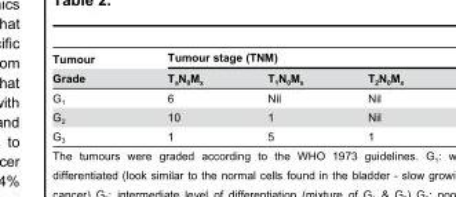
<table><thead><tr><td rowspan="2">Tumour Grade</td><td colspan="3">Tumour stage (TNM)</td></tr><tr><td>T<sub>a</sub>N<sub>0</sub>M<sub>x</sub></td><td>T<sub>1</sub>N<sub>0</sub>M<sub>x</sub></td><td>T<sub>2</sub>N<sub>0</sub>M<sub>x</sub></td></tr></thead><tbody><tr><td>G<sub>1</sub></td><td>6</td><td>Nil</td><td>Nil</td></tr><tr><td>G<sub>2</sub></td><td>10</td><td>1</td><td>Nil</td></tr><tr><td>G<sub>3</sub></td><td>1</td><td>5</td><td>1</td></tr></tbody></table>